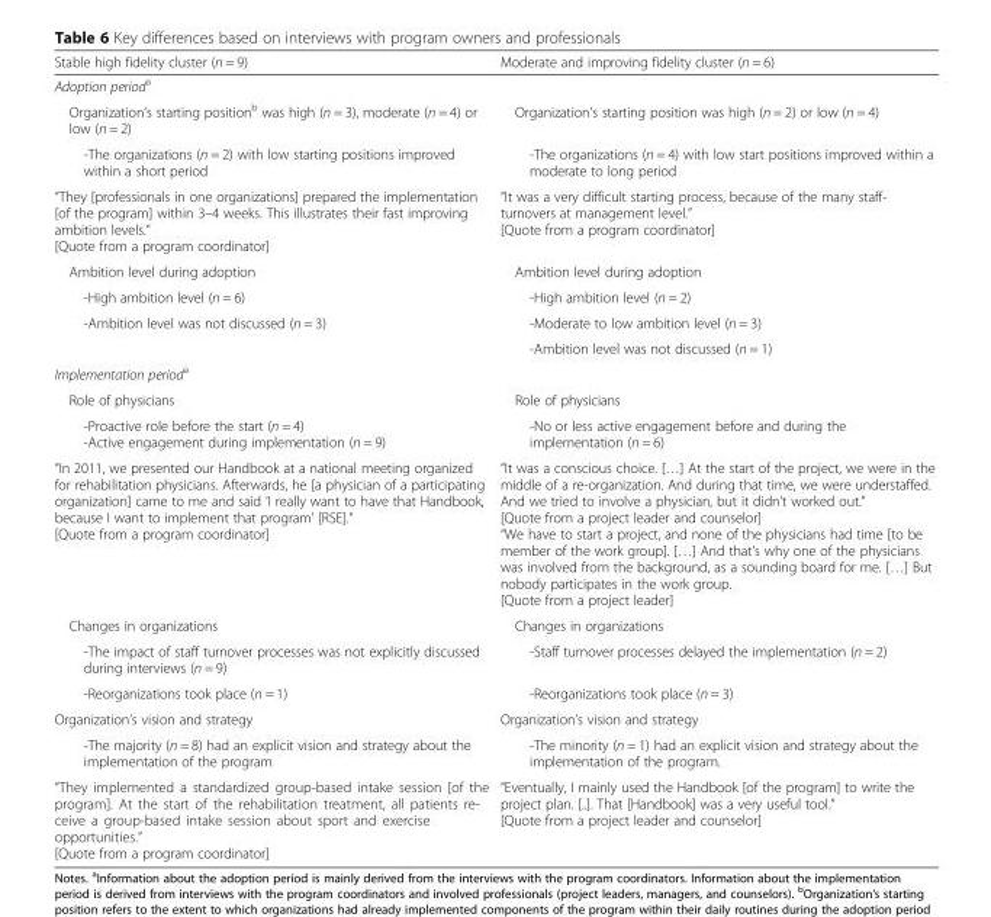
<table><thead><tr><td>Stable high fidelity cluster (n = 9)</td><td>Moderate and improving fidelity cluster (n = 6)</td></tr></thead><tbody><tr><td colspan="2">Adoption period<sup>a</sup></td></tr><tr><td>Organization’s starting position<sup>b</sup> was high (n = 3), moderate (n = 4) or low (n = 2)</td><td>Organization’s starting position was high (n = 2) or low (n = 4)</td></tr><tr><td>-The organizations (n = 2) with low starting positions improved within a short period</td><td>-The organizations (n = 4) with low start positions improved within a moderate to long period</td></tr><tr><td>“They [professionals in one organizations] prepared the implementation [of the program] within 3–4 weeks. This illustrates their fast improving ambition levels.” [Quote from a program coordinator]</td><td>“It was a very difficult starting process, because of the many staff- turnovers at management level.” [Quote from a program coordinator]</td></tr><tr><td>Ambition level during adoption</td><td>Ambition level during adoption</td></tr><tr><td>-High ambition level (n = 6)</td><td>-High ambition level (n = 2)</td></tr><tr><td rowspan="2">-Ambition level was not discussed (n = 3)</td><td>-Moderate to low ambition level (n = 3)</td></tr><tr><td>-Ambition level was not discussed (n = 1)</td></tr><tr><td colspan="2">Implementation period<sup>a</sup></td></tr><tr><td>Role of physicians</td><td>Role of physicians</td></tr><tr><td>-Proactive role before the start (n = 4) -Active engagement during implementation (n = 9)</td><td>-No or less active engagement before and during the implementation (n = 6)</td></tr><tr><td>“In 2011, we presented our Handbook at a national meeting organized for rehabilitation physicians. Afterwards, he [a physician of a participating organization] came to me and said ‘I really want to have that Handbook, because I want to implement that program’ [RSE].” [Quote from a program coordinator]</td><td>“It was a conscious choice. […] At the start of the project, we were in the middle of a re-organization. And during that time, we were understaffed. And we tried to involve a physician, but it didn’t worked out.” [Quote from a project leader and counselor] “We have to start a project, and none of the physicians had time [to be member of the work group]. […] And that’s why one of the physicians was involved from the background, as a sounding board for me. […] But nobody participates in the work group. [Quote from a project leader]</td></tr><tr><td>Changes in organizations</td><td>Changes in organizations</td></tr><tr><td>-The impact of staff turnover processes was not explicitly discussed during interviews (n = 9)</td><td>-Staff turnover processes delayed the implementation (n = 2)</td></tr><tr><td>-Reorganizations took place (n = 1)</td><td>-Reorganizations took place (n = 3)</td></tr><tr><td>Organization’s vision and strategy</td><td>Organization’s vision and strategy</td></tr><tr><td>-The majority (n = 8) had an explicit vision and strategy about the implementation of the program</td><td>-The minority (n = 1) had an explicit vision and strategy about the implementation of the program.</td></tr><tr><td>“They implemented a standardized group-based intake session [of the program]. At the start of the rehabilitation treatment, all patients re- ceive a group-based intake session about sport and exercise opportunities.” [Quote from a program coordinator]</td><td>“Eventually, I mainly used the Handbook [of the program] to write the project plan. [..]. That [Handbook] was a very useful tool.” [Quote from a project leader and counselor]</td></tr></tbody></table>